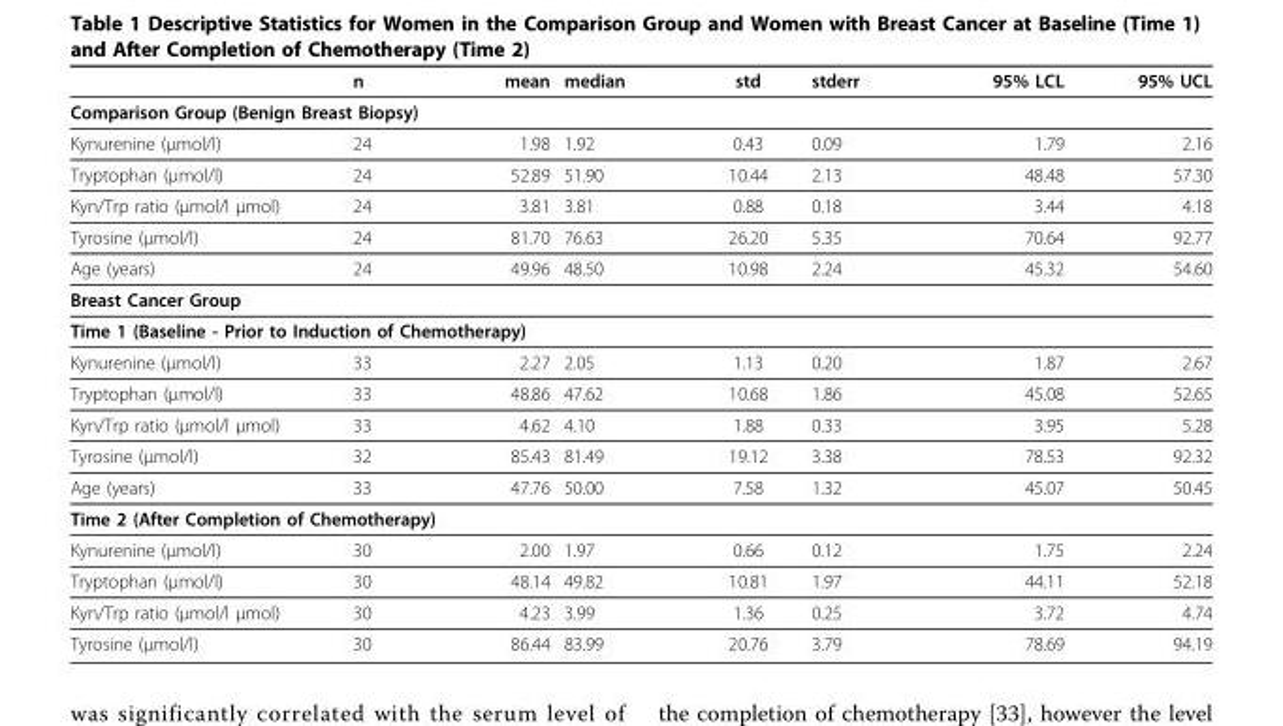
<table><thead><tr><td></td><td>n</td><td>mean</td><td>median</td><td>std</td><td>stderr</td><td>95% LCL</td><td>95% UCL</td></tr></thead><tbody><tr><td colspan="8">Comparison Group (Benign Breast Biopsy)</td></tr><tr><td>Kynurenine (μmol/l)</td><td>24</td><td>1.98</td><td>1.92</td><td>0.43</td><td>0.09</td><td>1.79</td><td>2.16</td></tr><tr><td>Tryptophan (μmol/l)</td><td>24</td><td>52.89</td><td>51.90</td><td>10.44</td><td>2.13</td><td>48.48</td><td>57.30</td></tr><tr><td>Kyn/Trp ratio (μmol/l μmol)</td><td>24</td><td>3.81</td><td>3.81</td><td>0.88</td><td>0.18</td><td>3.44</td><td>4.18</td></tr><tr><td>Tyrosine (μmol/l)</td><td>24</td><td>81.70</td><td>76.63</td><td>26.20</td><td>5.35</td><td>70.64</td><td>92.77</td></tr><tr><td>Age (years)</td><td>24</td><td>49.96</td><td>48.50</td><td>10.98</td><td>2.24</td><td>45.32</td><td>54.60</td></tr><tr><td colspan="8">Breast Cancer Group</td></tr><tr><td colspan="8">Time 1 (Baseline - Prior to Induction of Chemotherapy)</td></tr><tr><td>Kynurenine (μmol/l)</td><td>33</td><td>2.27</td><td>2.05</td><td>1.13</td><td>0.20</td><td>1.87</td><td>2.67</td></tr><tr><td>Tryptophan (μmol/l)</td><td>33</td><td>48.86</td><td>47.62</td><td>10.68</td><td>1.86</td><td>45.08</td><td>52.65</td></tr><tr><td>Kyn/Trp ratio (μmol/l μmol)</td><td>33</td><td>4.62</td><td>4.10</td><td>1.88</td><td>0.33</td><td>3.95</td><td>5.28</td></tr><tr><td>Tyrosine (μmol/l)</td><td>32</td><td>85.43</td><td>81.49</td><td>19.12</td><td>3.38</td><td>78.53</td><td>92.32</td></tr><tr><td>Age (years)</td><td>33</td><td>47.76</td><td>50.00</td><td>7.58</td><td>1.32</td><td>45.07</td><td>50.45</td></tr><tr><td colspan="8">Time 2 (After Completion of Chemotherapy)</td></tr><tr><td>Kynurenine (μmol/l)</td><td>30</td><td>2.00</td><td>1.97</td><td>0.66</td><td>0.12</td><td>1.75</td><td>2.24</td></tr><tr><td>Tryptophan (μmol/l)</td><td>30</td><td>48.14</td><td>49.82</td><td>10.81</td><td>1.97</td><td>44.11</td><td>52.18</td></tr><tr><td>Kyn/Trp ratio (μmol/l μmol)</td><td>30</td><td>4.23</td><td>3.99</td><td>1.36</td><td>0.25</td><td>3.72</td><td>4.74</td></tr><tr><td>Tyrosine (μmol/l)</td><td>30</td><td>86.44</td><td>83.99</td><td>20.76</td><td>3.79</td><td>78.69</td><td>94.19</td></tr></tbody></table>